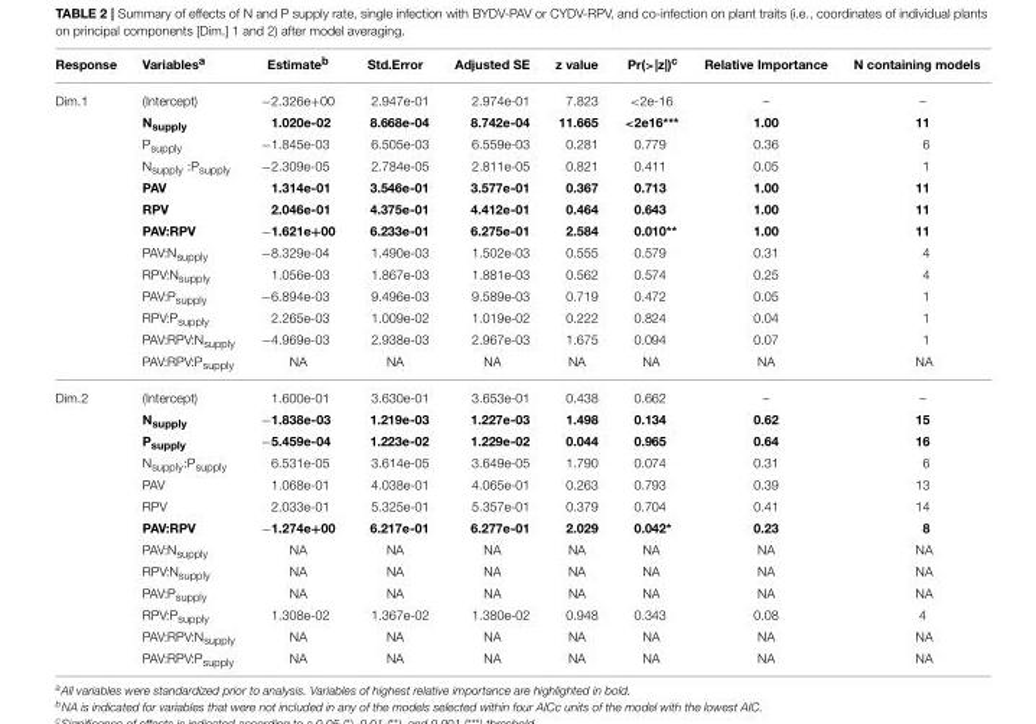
<table><thead><tr><td>Response</td><td>Variables<sup>a</sup></td><td>Estimate<sup>b</sup></td><td>Std.Error</td><td>Adjusted SE</td><td>z value</td><td>Pr(&gt;|z|)<sup>c</sup></td><td>Relative Importance</td><td>N containing models</td></tr></thead><tbody><tr><td rowspan="13">Dim.1</td><td>(Intercept)</td><td>−2.326e+00</td><td>2.947e-01</td><td>2.974e-01</td><td>7.823</td><td>&lt;2e-16</td><td>–</td><td>–</td></tr><tr><td>N<sub>supply</sub></td><td>1.020e-02</td><td>8.668e-04</td><td>8.742e-04</td><td>11.665</td><td>&lt;2e16***</td><td>1.00</td><td>11</td></tr><tr><td>P<sub>supply</sub></td><td>−1.845e-03</td><td>6.505e-03</td><td>6.559e-03</td><td>0.281</td><td>0.779</td><td>0.36</td><td>6</td></tr><tr><td>N<sub>supply</sub> :P<sub>supply</sub></td><td>−2.309e-05</td><td>2.784e-05</td><td>2.811e-05</td><td>0.821</td><td>0.411</td><td>0.05</td><td>1</td></tr><tr><td>PAV</td><td>1.314e-01</td><td>3.546e-01</td><td>3.577e-01</td><td>0.367</td><td>0.713</td><td>1.00</td><td>11</td></tr><tr><td>RPV</td><td>2.046e-01</td><td>4.375e-01</td><td>4.412e-01</td><td>0.464</td><td>0.643</td><td>1.00</td><td>11</td></tr><tr><td>PAV:RPV</td><td>−1.621e+00</td><td>6.233e-01</td><td>6.275e-01</td><td>2.584</td><td>0.010**</td><td>1.00</td><td>11</td></tr><tr><td>PAV:N<sub>supply</sub></td><td>−8.329e-04</td><td>1.490e-03</td><td>1.502e-03</td><td>0.555</td><td>0.579</td><td>0.31</td><td>4</td></tr><tr><td>RPV:N<sub>supply</sub></td><td>1.056e-03</td><td>1.867e-03</td><td>1.881e-03</td><td>0.562</td><td>0.574</td><td>0.25</td><td>4</td></tr><tr><td>PAV:P<sub>supply</sub></td><td>−6.894e-03</td><td>9.496e-03</td><td>9.589e-03</td><td>0.719</td><td>0.472</td><td>0.05</td><td>1</td></tr><tr><td>RPV:P<sub>supply</sub></td><td>2.265e-03</td><td>1.009e-02</td><td>1.019e-02</td><td>0.222</td><td>0.824</td><td>0.04</td><td>1</td></tr><tr><td>PAV:RPV:N<sub>supply</sub></td><td>−4.969e-03</td><td>2.938e-03</td><td>2.967e-03</td><td>1.675</td><td>0.094</td><td>0.07</td><td>1</td></tr><tr><td>PAV:RPV:P<sub>supply</sub></td><td>NA</td><td>NA</td><td>NA</td><td>NA</td><td>NA</td><td>NA</td><td>NA</td></tr><tr><td rowspan="13">Dim.2</td><td>(Intercept)</td><td>1.600e-01</td><td>3.630e-01</td><td>3.653e-01</td><td>0.438</td><td>0.662</td><td>–</td><td>–</td></tr><tr><td>N<sub>supply</sub></td><td>−1.838e-03</td><td>1.219e-03</td><td>1.227e-03</td><td>1.498</td><td>0.134</td><td>0.62</td><td>15</td></tr><tr><td>P<sub>supply</sub></td><td>−5.459e-04</td><td>1.223e-02</td><td>1.229e-02</td><td>0.044</td><td>0.965</td><td>0.64</td><td>16</td></tr><tr><td>N<sub>supply</sub>:P<sub>supply</sub></td><td>6.531e-05</td><td>3.614e-05</td><td>3.649e-05</td><td>1.790</td><td>0.074</td><td>0.31</td><td>6</td></tr><tr><td>PAV</td><td>1.068e-01</td><td>4.038e-01</td><td>4.065e-01</td><td>0.263</td><td>0.793</td><td>0.39</td><td>13</td></tr><tr><td>RPV</td><td>2.033e-01</td><td>5.325e-01</td><td>5.357e-01</td><td>0.379</td><td>0.704</td><td>0.41</td><td>14</td></tr><tr><td>PAV:RPV</td><td>−1.274e+00</td><td>6.217e-01</td><td>6.277e-01</td><td>2.029</td><td>0.042*</td><td>0.23</td><td>8</td></tr><tr><td>PAV:N<sub>supply</sub></td><td>NA</td><td>NA</td><td>NA</td><td>NA</td><td>NA</td><td>NA</td><td>NA</td></tr><tr><td>RPV:N<sub>supply</sub></td><td>NA</td><td>NA</td><td>NA</td><td>NA</td><td>NA</td><td>NA</td><td>NA</td></tr><tr><td>PAV:P<sub>supply</sub></td><td>NA</td><td>NA</td><td>NA</td><td>NA</td><td>NA</td><td>NA</td><td>NA</td></tr><tr><td>RPV:P<sub>supply</sub></td><td>1.308e-02</td><td>1.367e-02</td><td>1.380e-02</td><td>0.948</td><td>0.343</td><td>0.08</td><td>4</td></tr><tr><td>PAV:RPV:N<sub>supply</sub></td><td>NA</td><td>NA</td><td>NA</td><td>NA</td><td>NA</td><td>NA</td><td>NA</td></tr><tr><td>PAV:RPV:P<sub>supply</sub></td><td>NA</td><td>NA</td><td>NA</td><td>NA</td><td>NA</td><td>NA</td><td>NA</td></tr></tbody></table>